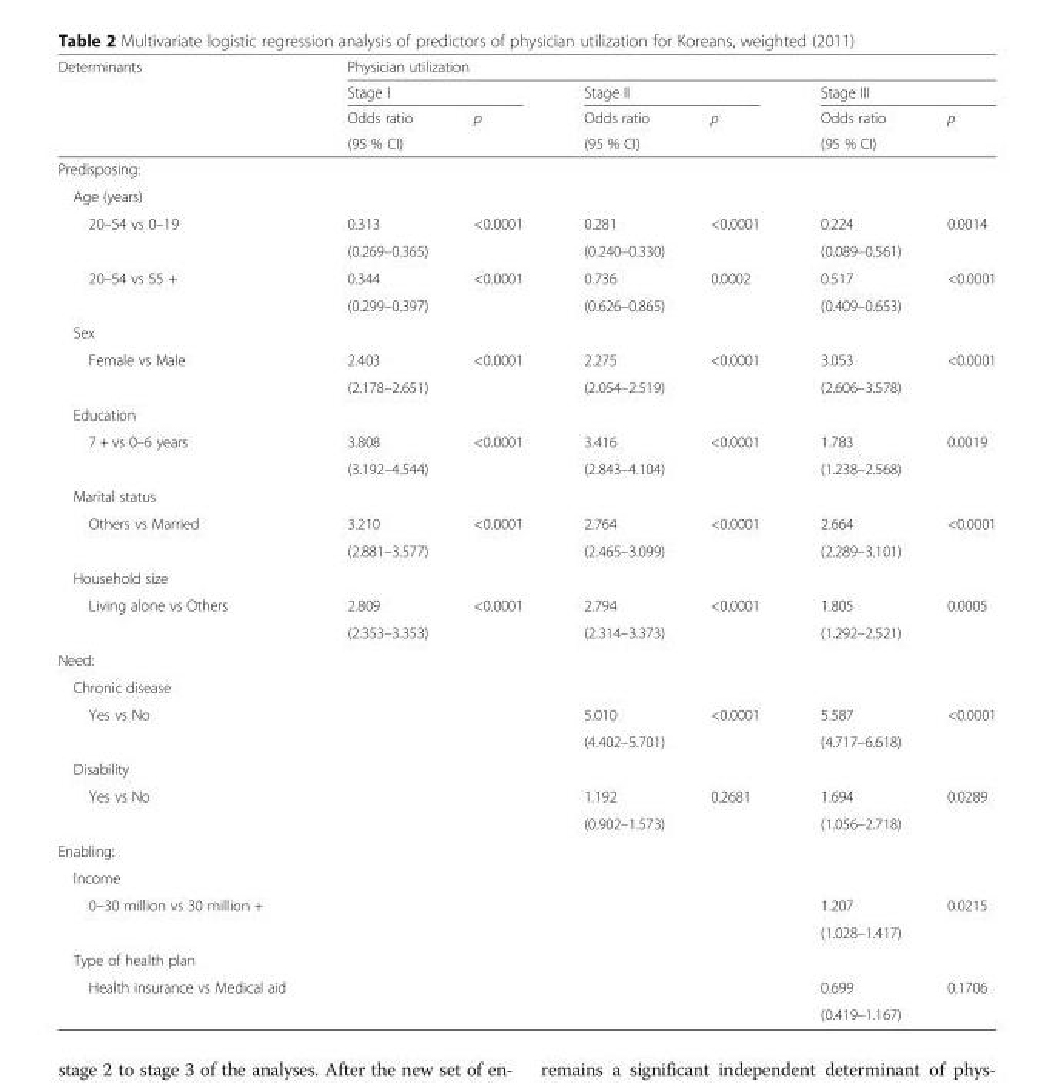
<table><thead><tr><td rowspan="4">Determinants</td><td colspan="6">Physician utilization</td></tr><tr><td colspan="2">Stage I</td><td colspan="2">Stage II</td><td colspan="2">Stage III</td></tr><tr><td>Odds ratio</td><td>p</td><td>Odds ratio</td><td>p</td><td>Odds ratio</td><td>p</td></tr><tr><td colspan="2">(95 % CI)</td><td colspan="2">(95 % CI)</td><td colspan="2">(95 % CI)</td></tr></thead><tbody><tr><td colspan="7">Predisposing:</td></tr><tr><td colspan="7">Age (years)</td></tr><tr><td rowspan="2">20–54 vs 0–19</td><td>0.313</td><td>&lt;0.0001</td><td>0.281</td><td>&lt;0.0001</td><td>0.224</td><td>0.0014</td></tr><tr><td colspan="2">(0.269–0.365)</td><td colspan="2">(0.240–0.330)</td><td colspan="2">(0.089–0.561)</td></tr><tr><td rowspan="2">20–54 vs 55 +</td><td>0.344</td><td>&lt;0.0001</td><td>0.736</td><td>0.0002</td><td>0.517</td><td>&lt;0.0001</td></tr><tr><td colspan="2">(0.299–0.397)</td><td colspan="2">(0.626–0.865)</td><td colspan="2">(0.409–0.653)</td></tr><tr><td colspan="7">Sex</td></tr><tr><td rowspan="2">Female vs Male</td><td>2.403</td><td>&lt;0.0001</td><td>2.275</td><td>&lt;0.0001</td><td>3.053</td><td>&lt;0.0001</td></tr><tr><td colspan="2">(2.178–2.651)</td><td colspan="2">(2.054–2.519)</td><td colspan="2">(2.606–3.578)</td></tr><tr><td colspan="7">Education</td></tr><tr><td rowspan="2">7 + vs 0–6 years</td><td>3.808</td><td>&lt;0.0001</td><td>3.416</td><td>&lt;0.0001</td><td>1.783</td><td>0.0019</td></tr><tr><td colspan="2">(3.192–4.544)</td><td colspan="2">(2.843–4.104)</td><td colspan="2">(1.238–2.568)</td></tr><tr><td colspan="7">Marital status</td></tr><tr><td rowspan="2">Others vs Married</td><td>3.210</td><td>&lt;0.0001</td><td>2.764</td><td>&lt;0.0001</td><td>2.664</td><td>&lt;0.0001</td></tr><tr><td colspan="2">(2.881–3.577)</td><td colspan="2">(2.465–3.099)</td><td colspan="2">(2.289–3.101)</td></tr><tr><td colspan="7">Household size</td></tr><tr><td rowspan="2">Living alone vs Others</td><td>2.809</td><td>&lt;0.0001</td><td>2.794</td><td>&lt;0.0001</td><td>1.805</td><td>0.0005</td></tr><tr><td colspan="2">(2.353–3.353)</td><td colspan="2">(2.314–3.373)</td><td colspan="2">(1.292–2.521)</td></tr><tr><td colspan="7">Need:</td></tr><tr><td colspan="7">Chronic disease</td></tr><tr><td rowspan="2">Yes vs No</td><td rowspan="2" colspan="2"></td><td>5.010</td><td>&lt;0.0001</td><td>5.587</td><td>&lt;0.0001</td></tr><tr><td colspan="2">(4.402–5.701)</td><td colspan="2">(4.717–6.618)</td></tr><tr><td colspan="7">Disability</td></tr><tr><td rowspan="2">Yes vs No</td><td rowspan="2" colspan="2"></td><td>1.192</td><td>0.2681</td><td>1.694</td><td>0.0289</td></tr><tr><td colspan="2">(0.902–1.573)</td><td colspan="2">(1.056–2.718)</td></tr><tr><td colspan="7">Enabling:</td></tr><tr><td colspan="7">Income</td></tr><tr><td rowspan="2">0–30 million vs 30 million +</td><td rowspan="2" colspan="2"></td><td rowspan="2" colspan="2"></td><td>1.207</td><td>0.0215</td></tr><tr><td colspan="2">(1.028–1.417)</td></tr><tr><td colspan="7">Type of health plan</td></tr><tr><td rowspan="2">Health insurance vs Medical aid</td><td rowspan="2" colspan="2"></td><td rowspan="2" colspan="2"></td><td>0.699</td><td>0.1706</td></tr><tr><td colspan="2">(0.419–1.167)</td></tr></tbody></table>